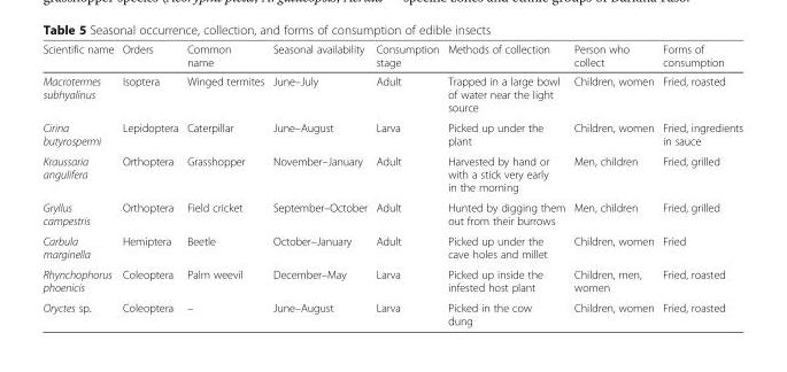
<table><thead><tr><td>Scientific name</td><td>Orders</td><td>Common name</td><td>Seasonal availability</td><td>Consumption stage</td><td>Methods of collection</td><td>Person who collect</td><td>Forms of consumption</td></tr></thead><tbody><tr><td>Macrotermes subhyalinus</td><td>Isoptera</td><td>Winged termites</td><td>June–July</td><td>Adult</td><td>Trapped in a large bowl of water near the light source</td><td>Children, women</td><td>Fried, roasted</td></tr><tr><td>Cirina butyrospermi</td><td>Lepidoptera</td><td>Caterpillar</td><td>June–August</td><td>Larva</td><td>Picked up under the plant</td><td>Children, women</td><td>Fried, ingredients in sauce</td></tr><tr><td>Kraussaria angulifera</td><td>Orthoptera</td><td>Grasshopper</td><td>November–January</td><td>Adult</td><td>Harvested by hand or with a stick very early in the morning</td><td>Men, children</td><td>Fried, grilled</td></tr><tr><td>Gryllus campestris</td><td>Orthoptera</td><td>Field cricket</td><td>September–October</td><td>Adult</td><td>Hunted by digging them out from their burrows</td><td>Men, children</td><td>Fried, grilled</td></tr><tr><td>Carbula marginella</td><td>Hemiptera</td><td>Beetle</td><td>October–January</td><td>Adult</td><td>Picked up under the cave holes and millet</td><td>Children, women</td><td>Fried</td></tr><tr><td>Rhynchophorus phoenicis</td><td>Coleoptera</td><td>Palm weevil</td><td>December–May</td><td>Larva</td><td>Picked up inside the infested host plant</td><td>Children, men, women</td><td>Fried, roasted</td></tr><tr><td>Oryctes sp.</td><td>Coleoptera</td><td>–</td><td>June–August</td><td>Larva</td><td>Picked in the cow dung</td><td>Children, women</td><td>Fried, roasted</td></tr></tbody></table>